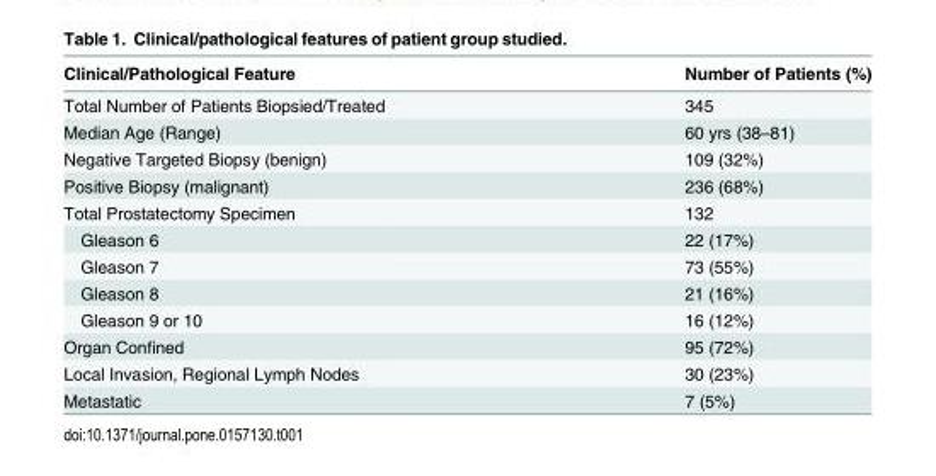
<table><thead><tr><td>Clinical/Pathological Feature</td><td>Number of Patients (%)</td></tr></thead><tbody><tr><td>Total Number of Patients Biopsied/Treated</td><td>345</td></tr><tr><td>Median Age (Range)</td><td>60 yrs (38–81)</td></tr><tr><td>Negative Targeted Biopsy (benign)</td><td>109 (32%)</td></tr><tr><td>Positive Biopsy (malignant)</td><td>236 (68%)</td></tr><tr><td>Total Prostatectomy Specimen</td><td>132</td></tr><tr><td>Gleason 6</td><td>22 (17%)</td></tr><tr><td>Gleason 7</td><td>73 (55%)</td></tr><tr><td>Gleason 8</td><td>21 (16%)</td></tr><tr><td>Gleason 9 or 10</td><td>16 (12%)</td></tr><tr><td>Organ Confined</td><td>95 (72%)</td></tr><tr><td>Local Invasion, Regional Lymph Nodes</td><td>30 (23%)</td></tr><tr><td>Metastatic</td><td>7 (5%)</td></tr></tbody></table>